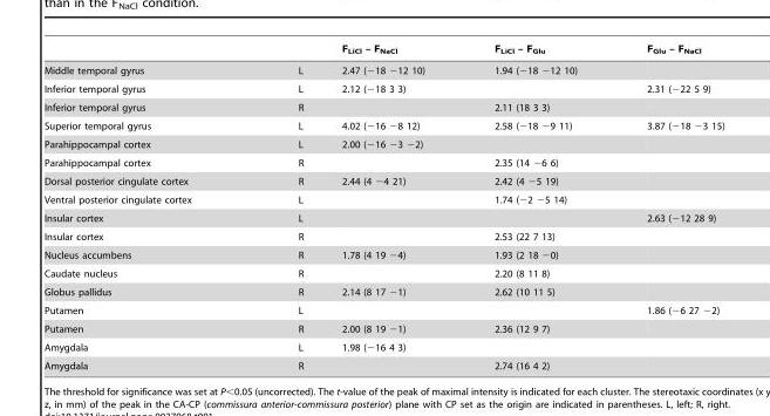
<table><thead><tr><td></td><td></td><td>F<sub>LiCl</sub> – F<sub>NaCl</sub></td><td>F<sub>LiCl</sub> – F<sub>Glu</sub></td><td>F<sub>Glu</sub> – F<sub>NaCl</sub></td></tr></thead><tbody><tr><td>Middle temporal gyrus</td><td>L</td><td>2.47 (−18 −12 10)</td><td>1.94 (−18 −12 10)</td><td></td></tr><tr><td>Inferior temporal gyrus</td><td>L</td><td>2.12 (−18 3 3)</td><td></td><td>2.31 (−22 5 9)</td></tr><tr><td>Inferior temporal gyrus</td><td>R</td><td></td><td>2.11 (18 3 3)</td><td></td></tr><tr><td>Superior temporal gyrus</td><td>L</td><td>4.02 (−16 −8 12)</td><td>2.58 (−18 −9 11)</td><td>3.87 (−18 −3 15)</td></tr><tr><td>Parahippocampal cortex</td><td>L</td><td>2.00 (−16 −3 −2)</td><td></td><td></td></tr><tr><td>Parahippocampal cortex</td><td>R</td><td></td><td>2.35 (14 −6 6)</td><td></td></tr><tr><td>Dorsal posterior cingulate cortex</td><td>R</td><td>2.44 (4 −4 21)</td><td>2.42 (4 −5 19)</td><td></td></tr><tr><td>Ventral posterior cingulate cortex</td><td>L</td><td></td><td>1.74 (−2 −5 14)</td><td></td></tr><tr><td>Insular cortex</td><td>L</td><td></td><td></td><td>2.63 (−12 28 9)</td></tr><tr><td>Insular cortex</td><td>R</td><td></td><td>2.53 (22 7 13)</td><td></td></tr><tr><td>Nucleus accumbens</td><td>R</td><td>1.78 (4 19 −4)</td><td>1.93 (2 18 −0)</td><td></td></tr><tr><td>Caudate nucleus</td><td>R</td><td></td><td>2.20 (8 11 8)</td><td></td></tr><tr><td>Globus pallidus</td><td>R</td><td>2.14 (8 17 −1)</td><td>2.62 (10 11 5)</td><td></td></tr><tr><td>Putamen</td><td>L</td><td></td><td></td><td>1.86 (−6 27 −2)</td></tr><tr><td>Putamen</td><td>R</td><td>2.00 (8 19 −1)</td><td>2.36 (12 9 7)</td><td></td></tr><tr><td>Amygdala</td><td>L</td><td>1.98 (−16 4 3)</td><td></td><td></td></tr><tr><td>Amygdala</td><td>R</td><td></td><td>2.74 (16 4 2)</td><td></td></tr></tbody></table>